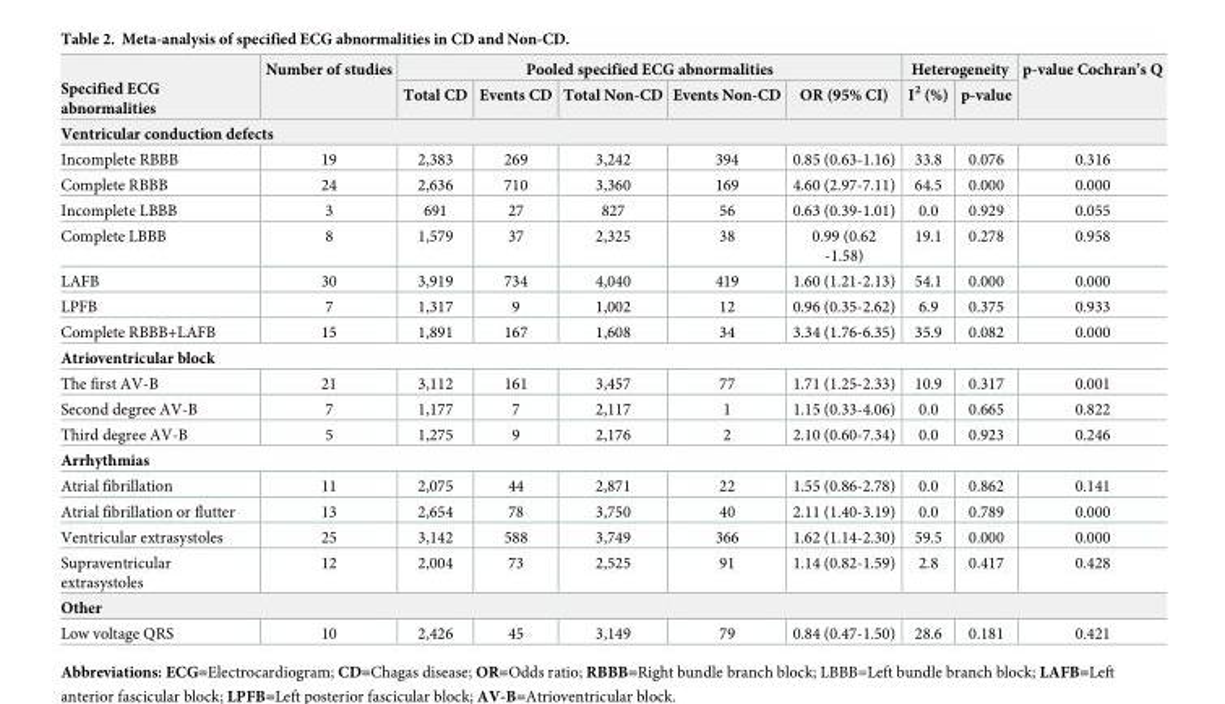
<table><thead><tr><td rowspan="2">Specified ECG abnormalities</td><td rowspan="2">Number of studies</td><td colspan="5">Pooled specified ECG abnormalities</td><td colspan="2">Heterogeneity</td><td rowspan="2">p-value Cochran’s Q</td></tr><tr><td>Total CD</td><td>Events CD</td><td>Total Non-CD</td><td>Events Non-CD</td><td>OR (95% CI)</td><td>I<sup>2</sup> (%)</td><td>p-value</td></tr></thead><tbody><tr><td colspan="10">Ventricular conduction defects</td></tr><tr><td>Incomplete RBBB</td><td>19</td><td>2,383</td><td>269</td><td>3,242</td><td>394</td><td>0.85 (0.63-1.16)</td><td>33.8</td><td>0.076</td><td>0.316</td></tr><tr><td>Complete RBBB</td><td>24</td><td>2,636</td><td>710</td><td>3,360</td><td>169</td><td>4.60 (2.97-7.11)</td><td>64.5</td><td>0.000</td><td>0.000</td></tr><tr><td>Incomplete LBBB</td><td>3</td><td>691</td><td>27</td><td>827</td><td>56</td><td>0.63 (0.39-1.01)</td><td>0.0</td><td>0.929</td><td>0.055</td></tr><tr><td>Complete LBBB</td><td>8</td><td>1,579</td><td>37</td><td>2,325</td><td>38</td><td>0.99 (0.62 -1.58)</td><td>19.1</td><td>0.278</td><td>0.958</td></tr><tr><td>LAFB</td><td>30</td><td>3,919</td><td>734</td><td>4,040</td><td>419</td><td>1.60 (1.21-2.13)</td><td>54.1</td><td>0.000</td><td>0.000</td></tr><tr><td>LPFB</td><td>7</td><td>1,317</td><td>9</td><td>1,002</td><td>12</td><td>0.96 (0.35-2.62)</td><td>6.9</td><td>0.375</td><td>0.933</td></tr><tr><td>Complete RBBB+LAFB</td><td>15</td><td>1,891</td><td>167</td><td>1,608</td><td>34</td><td>3.34 (1.76-6.35)</td><td>35.9</td><td>0.082</td><td>0.000</td></tr><tr><td colspan="10">Atrioventricular block</td></tr><tr><td>The first AV-B</td><td>21</td><td>3,112</td><td>161</td><td>3,457</td><td>77</td><td>1.71 (1.25-2.33)</td><td>10.9</td><td>0.317</td><td>0.001</td></tr><tr><td>Second degree AV-B</td><td>7</td><td>1,177</td><td>7</td><td>2,117</td><td>1</td><td>1.15 (0.33-4.06)</td><td>0.0</td><td>0.665</td><td>0.822</td></tr><tr><td>Third degree AV-B</td><td>5</td><td>1,275</td><td>9</td><td>2,176</td><td>2</td><td>2.10 (0.60-7.34)</td><td>0.0</td><td>0.923</td><td>0.246</td></tr><tr><td colspan="10">Arrhythmias</td></tr><tr><td>Atrial fibrillation</td><td>11</td><td>2,075</td><td>44</td><td>2,871</td><td>22</td><td>1.55 (0.86-2.78)</td><td>0.0</td><td>0.862</td><td>0.141</td></tr><tr><td>Atrial fibrillation or flutter</td><td>13</td><td>2,654</td><td>78</td><td>3,750</td><td>40</td><td>2.11 (1.40-3.19)</td><td>0.0</td><td>0.789</td><td>0.000</td></tr><tr><td>Ventricular extrasystoles</td><td>25</td><td>3,142</td><td>588</td><td>3,749</td><td>366</td><td>1.62 (1.14-2.30)</td><td>59.5</td><td>0.000</td><td>0.000</td></tr><tr><td>Supraventricular extrasystoles</td><td>12</td><td>2,004</td><td>73</td><td>2,525</td><td>91</td><td>1.14 (0.82-1.59)</td><td>2.8</td><td>0.417</td><td>0.428</td></tr><tr><td colspan="10">Other</td></tr><tr><td>Low voltage QRS</td><td>10</td><td>2,426</td><td>45</td><td>3,149</td><td>79</td><td>0.84 (0.47-1.50)</td><td>28.6</td><td>0.181</td><td>0.421</td></tr></tbody></table>